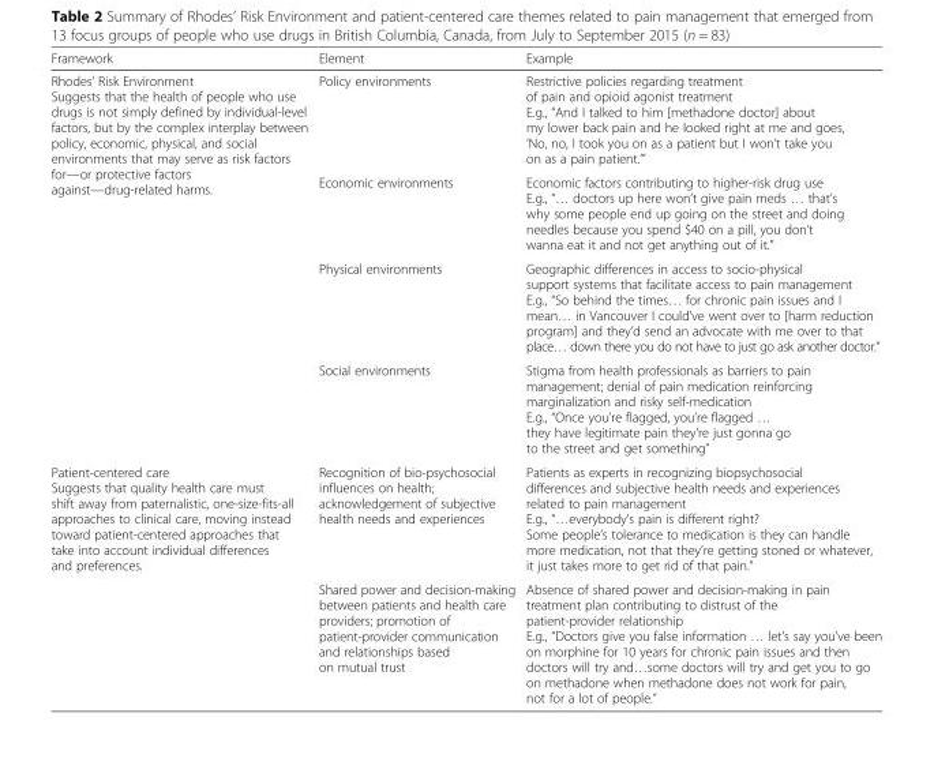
<table><thead><tr><td>Framework</td><td>Element</td><td>Example</td></tr></thead><tbody><tr><td rowspan="4">Rhodes’ Risk Environment Suggests that the health of people who use drugs is not simply defined by individual-level factors, but by the complex interplay between policy, economic, physical, and social environments that may serve as risk factors for—or protective factors against—drug-related harms.</td><td>Policy environments</td><td>Restrictive policies regarding treatment of pain and opioid agonist treatment E.g., “And I talked to him [methadone doctor] about my lower back pain and he looked right at me and goes, ‘No, no, I took you on as a patient but I won’t take you on as a pain patient.’”</td></tr><tr><td>Economic environments</td><td>Economic factors contributing to higher-risk drug use E.g., “… doctors up here won’t give pain meds … that’s why some people end up going on the street and doing needles because you spend $40 on a pill, you don’t wanna eat it and not get anything out of it.”</td></tr><tr><td>Physical environments</td><td>Geographic differences in access to socio-physical support systems that facilitate access to pain management E.g., “So behind the times… for chronic pain issues and I mean… in Vancouver I could’ve went over to [harm reduction program] and they’d send an advocate with me over to that place… down there you do not have to just go ask another doctor.”</td></tr><tr><td>Social environments</td><td>Stigma from health professionals as barriers to pain management; denial of pain medication reinforcing marginalization and risky self-medication E.g., “Once you’re flagged, you’re flagged … they have legitimate pain they’re just gonna go to the street and get something”</td></tr><tr><td rowspan="2">Patient-centered care Suggests that quality health care must shift away from paternalistic, one-size-fits-all approaches to clinical care, moving instead toward patient-centered approaches that take into account individual differences and preferences.</td><td>Recognition of bio-psychosocial influences on health; acknowledgement of subjective health needs and experiences</td><td>Patients as experts in recognizing biopsychosocial differences and subjective health needs and experiences related to pain management E.g., “…everybody’s pain is different right? Some people’s tolerance to medication is they can handle more medication, not that they’re getting stoned or whatever, it just takes more to get rid of that pain.”</td></tr><tr><td>Shared power and decision-making between patients and health care providers; promotion of patient-provider communication and relationships based on mutual trust</td><td>Absence of shared power and decision-making in pain treatment plan contributing to distrust of the patient-provider relationship E.g., “Doctors give you false information … let’s say you’ve been on morphine for 10 years for chronic pain issues and then doctors will try and…some doctors will try and get you to go on methadone when methadone does not work for pain, not for a lot of people.”</td></tr></tbody></table>